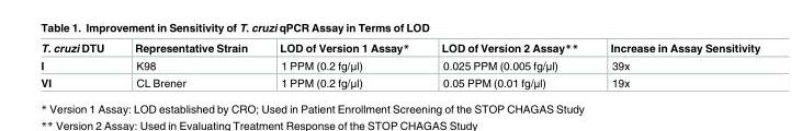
<table><thead><tr><td>T. cruzi DTU</td><td>Representative Strain</td><td>LOD of Version 1 Assay*</td><td>LOD of Version 2 Assay**</td><td>Increase in Assay Sensitivity</td></tr></thead><tbody><tr><td>I</td><td>K98</td><td>1 PPM (0.2 fg/μl)</td><td>0.025 PPM (0.005 fg/μl)</td><td>39x</td></tr><tr><td>VI</td><td>CL Brener</td><td>1 PPM (0.2 fg/μl)</td><td>0.05 PPM (0.01 fg/μl)</td><td>19x</td></tr></tbody></table>